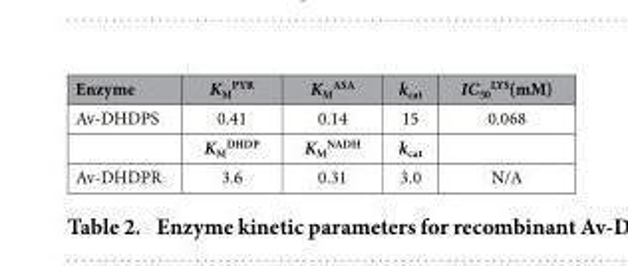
<table><thead><tr><td>Enzyme</td><td>K<sub>M</sub> <sup>PYR</sup></td><td>K<sub>M</sub> <sup>ASA</sup></td><td>k<sub>cat</sub></td><td>IC<sub>50</sub> <sup>LYS</sup>(mM)</td></tr></thead><tbody><tr><td rowspan="2">Av-DHDPS</td><td>0.41</td><td>0.14</td><td>15</td><td>0.068</td></tr><tr><td>K<sub>M</sub> <sup>DHDP</sup></td><td>K<sub>M</sub> <sup>NADH</sup></td><td>k<sub>cat</sub></td><td></td></tr><tr><td>Av-DHDPR</td><td>3.6</td><td>0.31</td><td>3.0</td><td>N/A</td></tr></tbody></table>